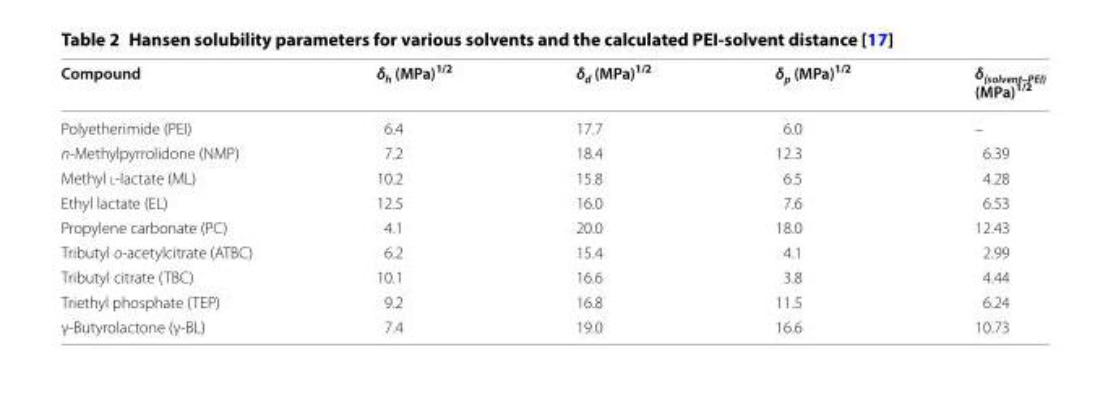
<table><thead><tr><td>Compound</td><td>δ<sub>h</sub> (MPa)<sup>1/2</sup></td><td>δ<sub>d</sub> (MPa)<sup>1/2</sup></td><td>δ<sub>p</sub> (MPa)<sup>1/2</sup></td><td>δ<sub>(solvent–PEI)</sub> (MPa)<sup>1/2</sup></td></tr></thead><tbody><tr><td>Polyetherimide (PEI)</td><td>6.4</td><td>17.7</td><td>6.0</td><td>–</td></tr><tr><td>n‑Methylpyrrolidone (NMP)</td><td>7.2</td><td>18.4</td><td>12.3</td><td>6.39</td></tr><tr><td>Methyl l‑lactate (ML)</td><td>10.2</td><td>15.8</td><td>6.5</td><td>4.28</td></tr><tr><td>Ethyl lactate (EL)</td><td>12.5</td><td>16.0</td><td>7.6</td><td>6.53</td></tr><tr><td>Propylene carbonate (PC)</td><td>4.1</td><td>20.0</td><td>18.0</td><td>12.43</td></tr><tr><td>Tributyl o‑acetylcitrate (ATBC)</td><td>6.2</td><td>15.4</td><td>4.1</td><td>2.99</td></tr><tr><td>Tributyl citrate (TBC)</td><td>10.1</td><td>16.6</td><td>3.8</td><td>4.44</td></tr><tr><td>Triethyl phosphate (TEP)</td><td>9.2</td><td>16.8</td><td>11.5</td><td>6.24</td></tr><tr><td>γ‑Butyrolactone (γ‑BL)</td><td>7.4</td><td>19.0</td><td>16.6</td><td>10.73</td></tr></tbody></table>